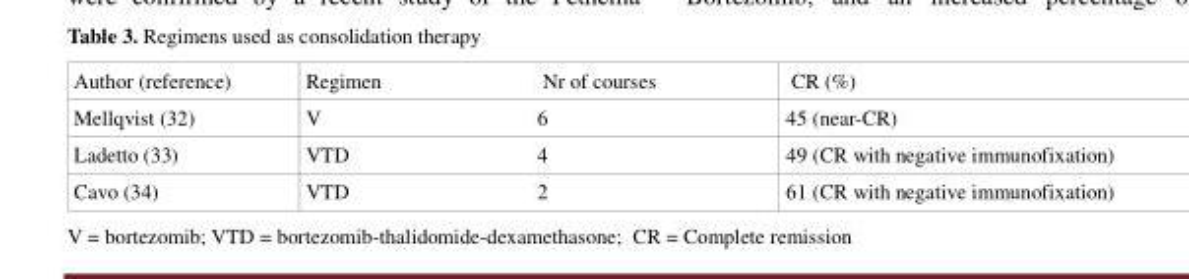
<table><thead><tr><td>Author (reference)</td><td>Regimen</td><td>Nr of courses</td><td>CR (%)</td></tr></thead><tbody><tr><td>Mellqvist (32)</td><td>V</td><td>6</td><td>45 (near-CR)</td></tr><tr><td>Ladetto (33)</td><td>VTD</td><td>4</td><td>49 (CR with negative immunofixation)</td></tr><tr><td>Cavo (34)</td><td>VTD</td><td>2</td><td>61 (CR with negative immunofixation)</td></tr></tbody></table>